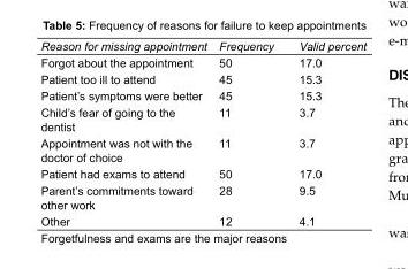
<table><tbody><tr><td>Reason for missing appointment</td><td>Frequency</td><td>Valid percent</td></tr><tr><td>Forgot about the appointment</td><td>50</td><td>17.0</td></tr><tr><td>Patient too ill to attend</td><td>45</td><td>15.3</td></tr><tr><td>Patient’s symptoms were better</td><td>45</td><td>15.3</td></tr><tr><td>Child’s fear of going to the dentist</td><td>11</td><td>3.7</td></tr><tr><td>Appointment was not with the doctor of choice</td><td>11</td><td>3.7</td></tr><tr><td>Patient had exams to attend</td><td>50</td><td>17.0</td></tr><tr><td>Parent’s commitments toward other work</td><td>28</td><td>9.5</td></tr><tr><td>Other</td><td>12</td><td>4.1</td></tr></tbody></table>